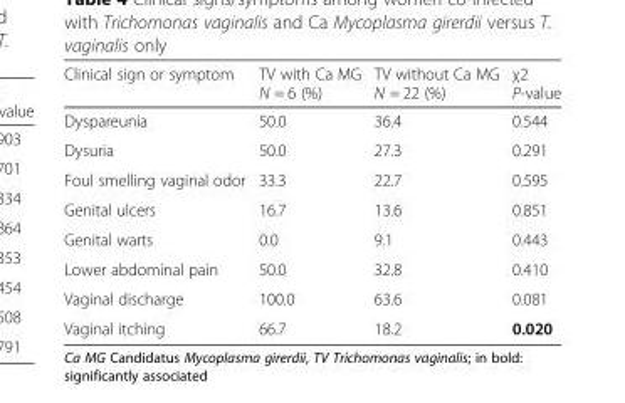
<table><thead><tr><td>Clinical sign or symptom</td><td>TV with Ca MG N = 6 (%)</td><td>TV without Ca MG N = 22 (%)</td><td>χ2 P-value</td></tr></thead><tbody><tr><td>Dyspareunia</td><td>50.0</td><td>36.4</td><td>0.544</td></tr><tr><td>Dysuria</td><td>50.0</td><td>27.3</td><td>0.291</td></tr><tr><td>Foul smelling vaginal odor</td><td>33.3</td><td>22.7</td><td>0.595</td></tr><tr><td>Genital ulcers</td><td>16.7</td><td>13.6</td><td>0.851</td></tr><tr><td>Genital warts</td><td>0.0</td><td>9.1</td><td>0.443</td></tr><tr><td>Lower abdominal pain</td><td>50.0</td><td>32.8</td><td>0.410</td></tr><tr><td>Vaginal discharge</td><td>100.0</td><td>63.6</td><td>0.081</td></tr><tr><td>Vaginal itching</td><td>66.7</td><td>18.2</td><td>0.020</td></tr></tbody></table>